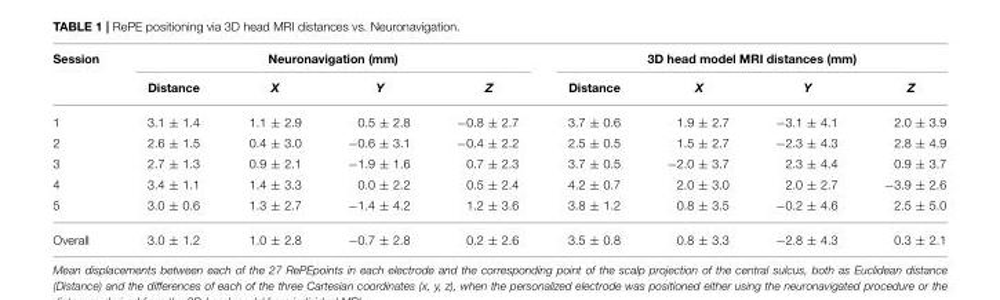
<table><thead><tr><td rowspan="2">Session</td><td colspan="4">Neuronavigation (mm)</td><td colspan="4">3D head model MRI distances (mm)</td></tr><tr><td>Distance</td><td>X</td><td>Y</td><td>Z</td><td>Distance</td><td>X</td><td>Y</td><td>Z</td></tr></thead><tbody><tr><td>1</td><td>3.1 ± 1.4</td><td>1.1 ± 2.9</td><td>0.5 ± 2.8</td><td>−0.8 ± 2.7</td><td>3.7 ± 0.6</td><td>1.9 ± 2.7</td><td>−3.1 ± 4.1</td><td>2.0 ± 3.9</td></tr><tr><td>2</td><td>2.6 ± 1.5</td><td>0.4 ± 3.0</td><td>−0.6 ± 3.1</td><td>−0.4 ± 2.2</td><td>2.5 ± 0.5</td><td>1.5 ± 2.7</td><td>−2.3 ± 4.3</td><td>2.8 ± 4.9</td></tr><tr><td>3</td><td>2.7 ± 1.3</td><td>0.9 ± 2.1</td><td>−1.9 ± 1.6</td><td>0.7 ± 2.3</td><td>3.7 ± 0.5</td><td>−2.0 ± 3.7</td><td>2.3 ± 4.4</td><td>0.9 ± 3.7</td></tr><tr><td>4</td><td>3.4 ± 1.1</td><td>1.4 ± 3.3</td><td>0.0 ± 2.2</td><td>0.5 ± 2.4</td><td>4.2 ± 0.7</td><td>2.0 ± 3.0</td><td>2.0 ± 2.7</td><td>−3.9 ± 2.6</td></tr><tr><td>5</td><td>3.0 ± 0.6</td><td>1.3 ± 2.7</td><td>−1.4 ± 4.2</td><td>1.2 ± 3.6</td><td>3.8 ± 1.2</td><td>0.8 ± 3.5</td><td>−0.2 ± 4.6</td><td>2.5 ± 5.0</td></tr><tr><td>Overall</td><td>3.0 ± 1.2</td><td>1.0 ± 2.8</td><td>−0.7 ± 2.8</td><td>0.2 ± 2.6</td><td>3.5 ± 0.8</td><td>0.8 ± 3.3</td><td>−2.8 ± 4.3</td><td>0.3 ± 2.1</td></tr></tbody></table>